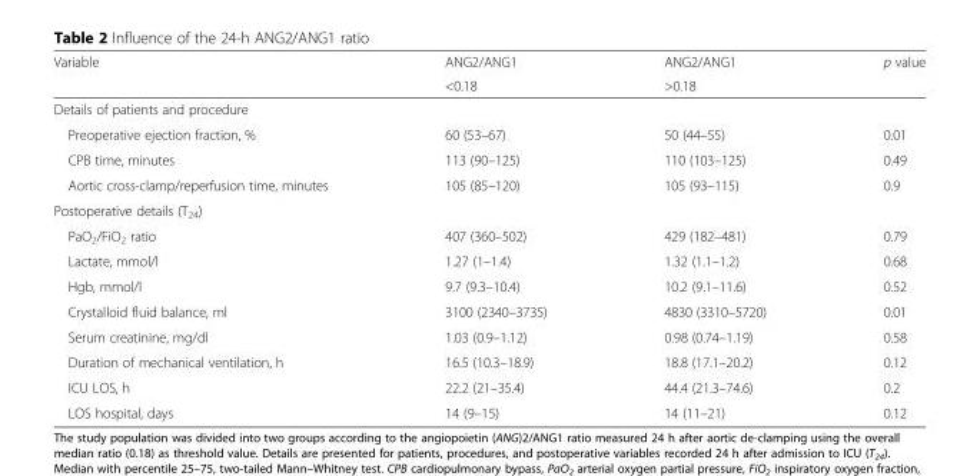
<table><thead><tr><td rowspan="2">Variable</td><td rowspan="2">ANG2/ANG1 &lt;0.18</td><td rowspan="2">ANG2/ANG1 &gt;0.18</td><td rowspan="2">p value</td></tr><tr></tr></thead><tbody><tr><td colspan="4">Details of patients and procedure</td></tr><tr><td>Preoperative ejection fraction, %</td><td>60 (53–67)</td><td>50 (44–55)</td><td>0.01</td></tr><tr><td>CPB time, minutes</td><td>113 (90–125)</td><td>110 (103–125)</td><td>0.49</td></tr><tr><td>Aortic cross-clamp/reperfusion time, minutes</td><td>105 (85–120)</td><td>105 (93–115)</td><td>0.9</td></tr><tr><td colspan="4">Postoperative details (T<sub>24</sub>)</td></tr><tr><td>PaO<sub>2</sub>/FiO<sub>2</sub> ratio</td><td>407 (360–502)</td><td>429 (182–481)</td><td>0.79</td></tr><tr><td>Lactate, mmol/l</td><td>1.27 (1–1.4)</td><td>1.32 (1.1–1.2)</td><td>0.68</td></tr><tr><td>Hgb, mmol/l</td><td>9.7 (9.3–10.4)</td><td>10.2 (9.1–11.6)</td><td>0.52</td></tr><tr><td>Crystalloid fluid balance, ml</td><td>3100 (2340–3735)</td><td>4830 (3310–5720)</td><td>0.01</td></tr><tr><td>Serum creatinine, mg/dl</td><td>1.03 (0.9–1.12)</td><td>0.98 (0.74–1.19)</td><td>0.58</td></tr><tr><td>Duration of mechanical ventilation, h</td><td>16.5 (10.3–18.9)</td><td>18.8 (17.1–20.2)</td><td>0.12</td></tr><tr><td>ICU LOS, h</td><td>22.2 (21–35.4)</td><td>44.4 (21.3–74.6)</td><td>0.2</td></tr><tr><td>LOS hospital, days</td><td>14 (9–15)</td><td>14 (11–21)</td><td>0.12</td></tr></tbody></table>